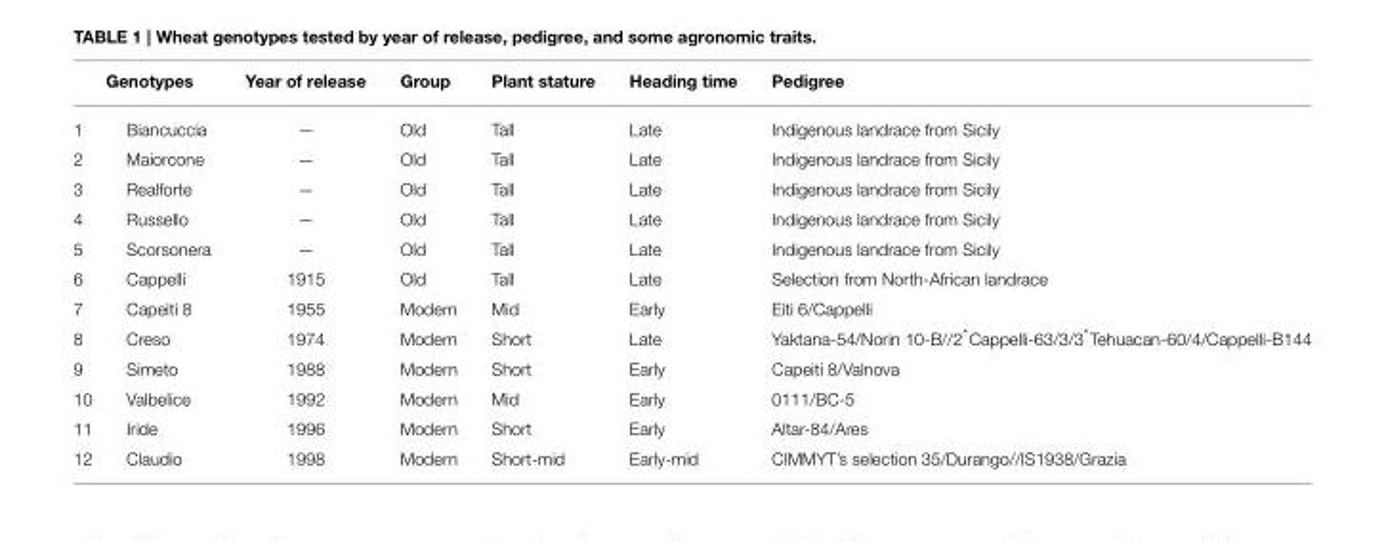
<table><thead><tr><td colspan="2">Genotypes</td><td rowspan="2">Year of release —</td><td rowspan="2">Group Old</td><td rowspan="2">Plant stature Tall</td><td rowspan="2">Heading time Late</td><td rowspan="2">Pedigree Indigenous landrace from Sicily</td></tr><tr><td>1</td><td>Biancuccia</td></tr></thead><tbody><tr><td>2</td><td>Maiorcone</td><td>—</td><td>Old</td><td>Tall</td><td>Late</td><td>Indigenous landrace from Sicily</td></tr><tr><td>3</td><td>Realforte</td><td>—</td><td>Old</td><td>Tall</td><td>Late</td><td>Indigenous landrace from Sicily</td></tr><tr><td>4</td><td>Russello</td><td>—</td><td>Old</td><td>Tall</td><td>Late</td><td>Indigenous landrace from Sicily</td></tr><tr><td>5</td><td>Scorsonera</td><td>—</td><td>Old</td><td>Tall</td><td>Late</td><td>Indigenous landrace from Sicily</td></tr><tr><td>6</td><td>Cappelli</td><td>1915</td><td>Old</td><td>Tall</td><td>Late</td><td>Selection from North-African landrace</td></tr><tr><td>7</td><td>Capeiti 8</td><td>1955</td><td>Modern</td><td>Mid</td><td>Early</td><td>Eiti 6/Cappelli</td></tr><tr><td>8</td><td>Creso</td><td>1974</td><td>Modern</td><td>Short</td><td>Late</td><td>Yaktana-54/Norin 10-B//2*Cappelli-63/3/3*Tehuacan-60/4/Cappelli-B144</td></tr><tr><td>9</td><td>Simeto</td><td>1988</td><td>Modern</td><td>Short</td><td>Early</td><td>Capeiti 8/Valnova</td></tr><tr><td>10</td><td>Valbelice</td><td>1992</td><td>Modern</td><td>Mid</td><td>Early</td><td>0111/BC-5</td></tr><tr><td>11</td><td>Iride</td><td>1996</td><td>Modern</td><td>Short</td><td>Early</td><td>Altar-84/Ares</td></tr><tr><td>12</td><td>Claudio</td><td>1998</td><td>Modern</td><td>Short-mid</td><td>Early-mid</td><td>CIMMYT’s selection 35/Durango//IS1938/Grazia</td></tr></tbody></table>